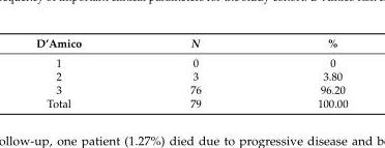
<table><thead><tr><td>D’Amico</td><td>N</td><td>%</td></tr></thead><tbody><tr><td>1</td><td>0</td><td>0</td></tr><tr><td>2</td><td>3</td><td>3.80</td></tr><tr><td>3</td><td>76</td><td>96.20</td></tr><tr><td>Total</td><td>79</td><td>100.00</td></tr></tbody></table>